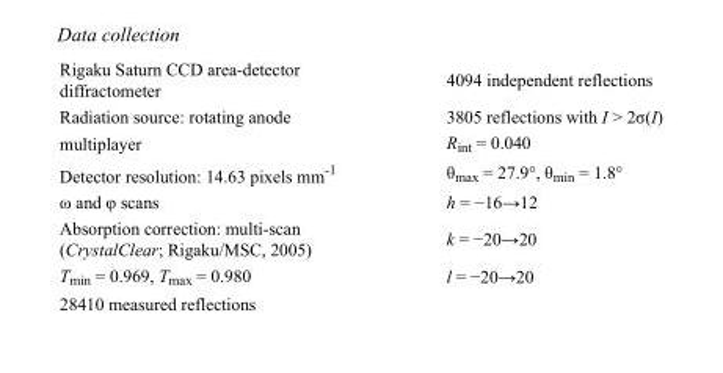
<table><tbody><tr><td>Rigaku Saturn CCD area-detector diffractometer</td><td>4094 independent reflections</td></tr><tr><td>Radiation source: rotating anode</td><td>3805 reflections with I &gt; 2σ(I)</td></tr><tr><td>multiplayer</td><td>R<sub>int</sub> = 0.040</td></tr><tr><td>Detector resolution: 14.63 pixels mm<sup>-1</sup></td><td>θ<sub>max</sub> = 27.9°, θ<sub>min</sub> = 1.8°</td></tr><tr><td>ω and φ scans</td><td>h = −16→12</td></tr><tr><td>Absorption correction: multi-scan (CrystalClear; Rigaku/MSC, 2005)</td><td>k = −20→20</td></tr><tr><td>T<sub>min</sub> = 0.969, T<sub>max</sub> = 0.980</td><td>l = −20→20</td></tr><tr><td>28410 measured reflections</td><td></td></tr></tbody></table>